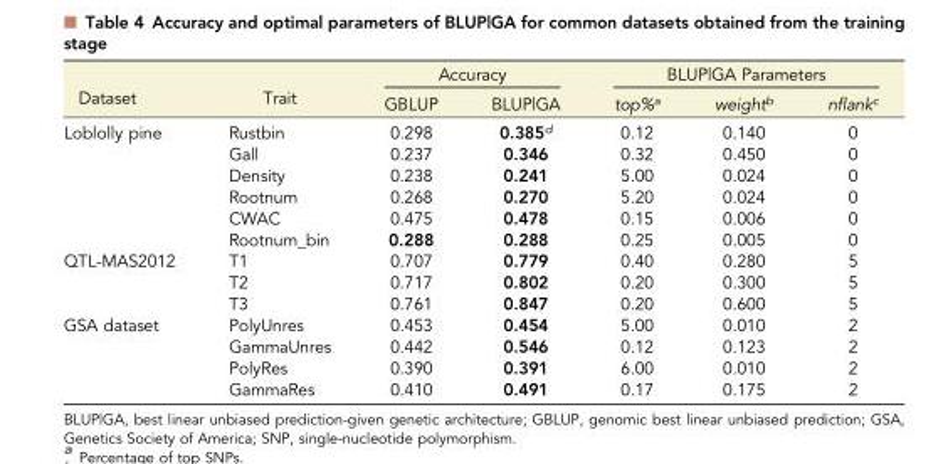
<table><thead><tr><td rowspan="2">Dataset</td><td rowspan="2">Trait</td><td colspan="2">Accuracy</td><td colspan="3">BLUP|GA Parameters</td></tr><tr><td>GBLUP</td><td>BLUP|GA</td><td>top%<sup>a</sup></td><td>weight<sup>b</sup></td><td>nflank<sup>c</sup></td></tr></thead><tbody><tr><td rowspan="6">Loblolly pine</td><td>Rustbin</td><td>0.298</td><td>0.385<sup>d</sup></td><td>0.12</td><td>0.140</td><td>0</td></tr><tr><td>Gall</td><td>0.237</td><td>0.346</td><td>0.32</td><td>0.450</td><td>0</td></tr><tr><td>Density</td><td>0.238</td><td>0.241</td><td>5.00</td><td>0.024</td><td>0</td></tr><tr><td>Rootnum</td><td>0.268</td><td>0.270</td><td>5.20</td><td>0.024</td><td>0</td></tr><tr><td>CWAC</td><td>0.475</td><td>0.478</td><td>0.15</td><td>0.006</td><td>0</td></tr><tr><td>Rootnum_bin</td><td>0.288</td><td>0.288</td><td>0.25</td><td>0.005</td><td>0</td></tr><tr><td rowspan="3">QTL-MAS2012</td><td>T1</td><td>0.707</td><td>0.779</td><td>0.40</td><td>0.280</td><td>5</td></tr><tr><td>T2</td><td>0.717</td><td>0.802</td><td>0.20</td><td>0.300</td><td>5</td></tr><tr><td>T3</td><td>0.761</td><td>0.847</td><td>0.20</td><td>0.600</td><td>5</td></tr><tr><td rowspan="4">GSA dataset</td><td>PolyUnres</td><td>0.453</td><td>0.454</td><td>5.00</td><td>0.010</td><td>2</td></tr><tr><td>GammaUnres</td><td>0.442</td><td>0.546</td><td>0.12</td><td>0.123</td><td>2</td></tr><tr><td>PolyRes</td><td>0.390</td><td>0.391</td><td>6.00</td><td>0.010</td><td>2</td></tr><tr><td>GammaRes</td><td>0.410</td><td>0.491</td><td>0.17</td><td>0.175</td><td>2</td></tr></tbody></table>